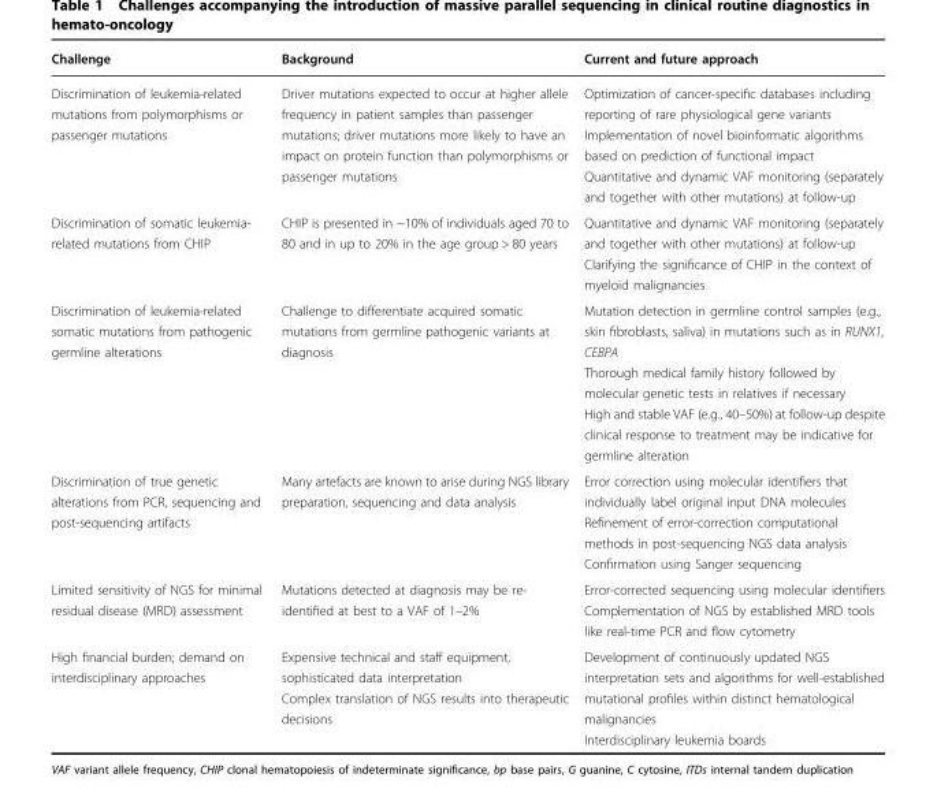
<table><thead><tr><td>Challenge</td><td>Background</td><td>Current and future approach</td></tr></thead><tbody><tr><td>Discrimination of leukemia-related mutations from polymorphisms or passenger mutations</td><td>Driver mutations expected to occur at higher allele frequency in patient samples than passenger mutations; driver mutations more likely to have an impact on protein function than polymorphisms or passenger mutations</td><td>Optimization of cancer-specific databases including reporting of rare physiological gene variants Implementation of novel bioinformatic algorithms based on prediction of functional impact Quantitative and dynamic VAF monitoring (separately and together with other mutations) at follow-up</td></tr><tr><td>Discrimination of somatic leukemia- related mutations from CHIP</td><td>CHIP is presented in ~10% of individuals aged 70 to 80 and in up to 20% in the age group &gt; 80 years</td><td>Quantitative and dynamic VAF monitoring (separately and together with other mutations) at follow-up Clarifying the significance of CHIP in the context of myeloid malignancies</td></tr><tr><td>Discrimination of leukemia-related somatic mutations from pathogenic germline alterations</td><td>Challenge to differentiate acquired somatic mutations from germline pathogenic variants at diagnosis</td><td>Mutation detection in germline control samples (e.g., skin fibroblasts, saliva) in mutations such as in RUNX1, CEBPA Thorough medical family history followed by molecular genetic tests in relatives if necessary High and stable VAF (e.g., 40–50%) at follow-up despite clinical response to treatment may be indicative for germline alteration</td></tr><tr><td>Discrimination of true genetic alterations from PCR, sequencing and post-sequencing artifacts</td><td>Many artefacts are known to arise during NGS library preparation, sequencing and data analysis</td><td>Error correction using molecular identifiers that individually label original input DNA molecules Refinement of error-correction computational methods in post-sequencing NGS data analysis Confirmation using Sanger sequencing</td></tr><tr><td>Limited sensitivity of NGS for minimal residual disease (MRD) assessment</td><td>Mutations detected at diagnosis may be re- identified at best to a VAF of 1–2%</td><td>Error-corrected sequencing using molecular identifiers Complementation of NGS by established MRD tools like real-time PCR and flow cytometry</td></tr><tr><td>High financial burden; demand on interdisciplinary approaches</td><td>Expensive technical and staff equipment, sophisticated data interpretation Complex translation of NGS results into therapeutic decisions</td><td>Development of continuously updated NGS interpretation sets and algorithms for well-established mutational profiles within distinct hematological malignancies Interdisciplinary leukemia boards</td></tr></tbody></table>